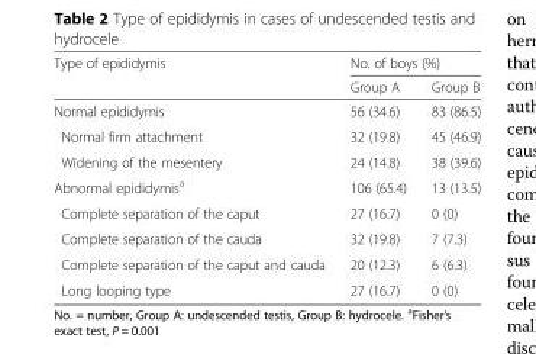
<table><thead><tr><td rowspan="2">Type of epididymis</td><td colspan="2">No. of boys (%)</td></tr><tr><td>Group A</td><td>Group B</td></tr></thead><tbody><tr><td>Normal epididymis</td><td>56 (34.6)</td><td>83 (86.5)</td></tr><tr><td>Normal firm attachment</td><td>32 (19.8)</td><td>45 (46.9)</td></tr><tr><td>Widening of the mesentery</td><td>24 (14.8)</td><td>38 (39.6)</td></tr><tr><td>Abnormal epididymis<sup>a</sup></td><td>106 (65.4)</td><td>13 (13.5)</td></tr><tr><td>Complete separation of the caput</td><td>27 (16.7)</td><td>0 (0)</td></tr><tr><td>Complete separation of the cauda</td><td>32 (19.8)</td><td>7 (7.3)</td></tr><tr><td>Complete separation of the caput and cauda</td><td>20 (12.3)</td><td>6 (6.3)</td></tr><tr><td>Long looping type</td><td>27 (16.7)</td><td>0 (0)</td></tr></tbody></table>